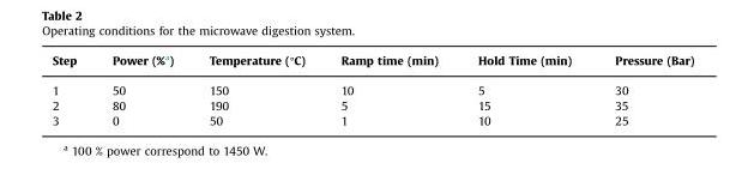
<table><thead><tr><td>Step</td><td>Power (%<sup>a</sup>)</td><td>Temperature (°C)</td><td>Ramp time (min)</td><td>Hold Time (min)</td><td>Pressure (Bar)</td></tr></thead><tbody><tr><td>1</td><td>50</td><td>150</td><td>10</td><td>5</td><td>30</td></tr><tr><td>2</td><td>80</td><td>190</td><td>5</td><td>15</td><td>35</td></tr><tr><td>3</td><td>0</td><td>50</td><td>1</td><td>10</td><td>25</td></tr></tbody></table>